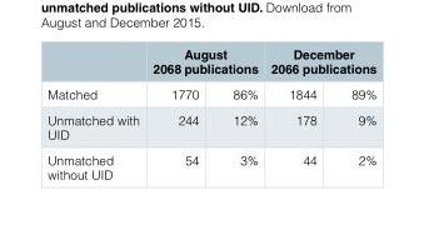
<table><thead><tr><td rowspan="2">Matched</td><td colspan="2">August 2068 publications</td><td colspan="2">December 2066 publications</td></tr><tr><td>1770</td><td>86%</td><td>1844</td><td>89%</td></tr></thead><tbody><tr><td>Unmatched with UID</td><td>244</td><td>12%</td><td>178</td><td>9%</td></tr><tr><td>Unmatched without UID</td><td>54</td><td>3%</td><td>44</td><td>2%</td></tr></tbody></table>